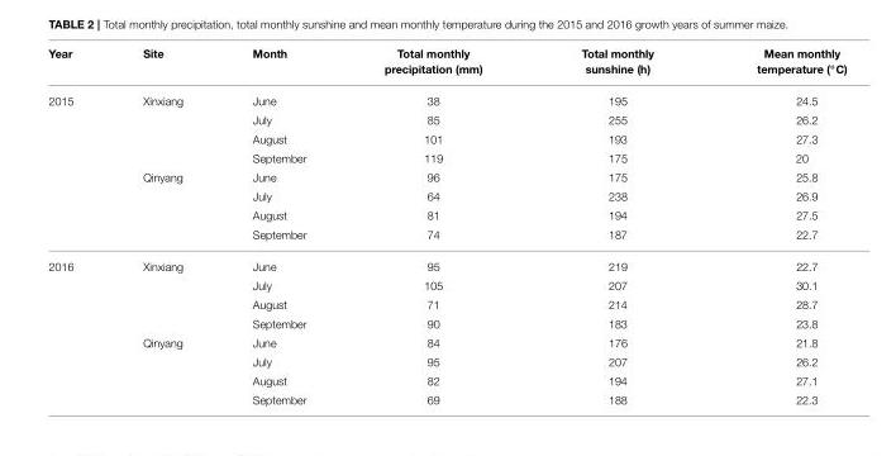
<table><thead><tr><td>Year</td><td>Site</td><td>Month</td><td>Total monthly precipitation (mm)</td><td>Total monthly sunshine (h)</td><td>Mean monthly temperature (◦C)</td></tr></thead><tbody><tr><td rowspan="8">2015</td><td>Xinxiang</td><td>June</td><td>38</td><td>195</td><td>24.5</td></tr><tr><td></td><td>July</td><td>85</td><td>255</td><td>26.2</td></tr><tr><td></td><td>August</td><td>101</td><td>193</td><td>27.3</td></tr><tr><td></td><td>September</td><td>119</td><td>175</td><td>20</td></tr><tr><td>Qinyang</td><td>June</td><td>96</td><td>175</td><td>25.8</td></tr><tr><td></td><td>July</td><td>64</td><td>238</td><td>26.9</td></tr><tr><td></td><td>August</td><td>81</td><td>194</td><td>27.5</td></tr><tr><td></td><td>September</td><td>74</td><td>187</td><td>22.7</td></tr><tr><td rowspan="8">2016</td><td>Xinxiang</td><td>June</td><td>95</td><td>219</td><td>22.7</td></tr><tr><td></td><td>July</td><td>105</td><td>207</td><td>30.1</td></tr><tr><td></td><td>August</td><td>71</td><td>214</td><td>28.7</td></tr><tr><td></td><td>September</td><td>90</td><td>183</td><td>23.8</td></tr><tr><td>Qinyang</td><td>June</td><td>84</td><td>176</td><td>21.8</td></tr><tr><td></td><td>July</td><td>95</td><td>207</td><td>26.2</td></tr><tr><td></td><td>August</td><td>82</td><td>194</td><td>27.1</td></tr><tr><td></td><td>September</td><td>69</td><td>188</td><td>22.3</td></tr></tbody></table>